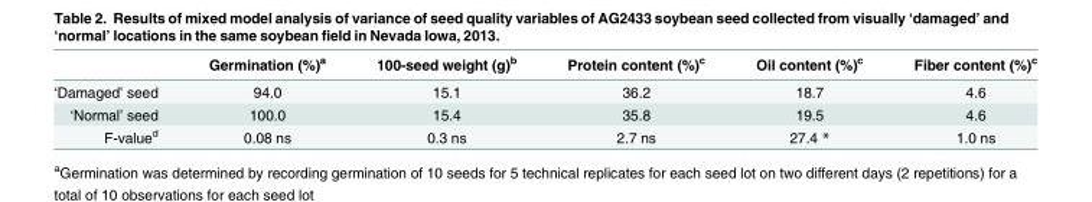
<table><thead><tr><td></td><td>Germination (%)<sup>a</sup></td><td>100-seed weight (g)<sup>b</sup></td><td>Protein content (%)<sup>c</sup></td><td>Oil content (%)<sup>c</sup></td><td>Fiber content (%)<sup>c</sup></td></tr></thead><tbody><tr><td>‘Damaged’ seed</td><td>94.0</td><td>15.1</td><td>36.2</td><td>18.7</td><td>4.6</td></tr><tr><td>‘Normal’ seed</td><td>100.0</td><td>15.4</td><td>35.8</td><td>19.5</td><td>4.6</td></tr><tr><td>F-value<sup>d</sup></td><td>0.08 ns</td><td>0.3 ns</td><td>2.7 ns</td><td>27.4 *</td><td>1.0 ns</td></tr></tbody></table>